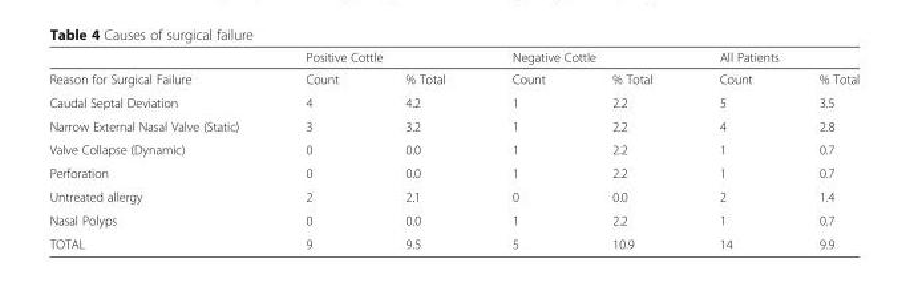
<table><thead><tr><td rowspan="2">Reason for Surgical Failure</td><td colspan="2">Positive Cottle</td><td colspan="2">Negative Cottle</td><td colspan="2">All Patients</td></tr><tr><td>Count</td><td>% Total</td><td>Count</td><td>% Total</td><td>Count</td><td>% Total</td></tr></thead><tbody><tr><td>Caudal Septal Deviation</td><td>4</td><td>4.2</td><td>1</td><td>2.2</td><td>5</td><td>3.5</td></tr><tr><td>Narrow External Nasal Valve (Static)</td><td>3</td><td>3.2</td><td>1</td><td>2.2</td><td>4</td><td>2.8</td></tr><tr><td>Valve Collapse (Dynamic)</td><td>0</td><td>0.0</td><td>1</td><td>2.2</td><td>1</td><td>0.7</td></tr><tr><td>Perforation</td><td>0</td><td>0.0</td><td>1</td><td>2.2</td><td>1</td><td>0.7</td></tr><tr><td>Untreated allergy</td><td>2</td><td>2.1</td><td>0</td><td>0.0</td><td>2</td><td>1.4</td></tr><tr><td>Nasal Polyps</td><td>0</td><td>0.0</td><td>1</td><td>2.2</td><td>1</td><td>0.7</td></tr><tr><td>TOTAL</td><td>9</td><td>9.5</td><td>5</td><td>10.9</td><td>14</td><td>9.9</td></tr></tbody></table>